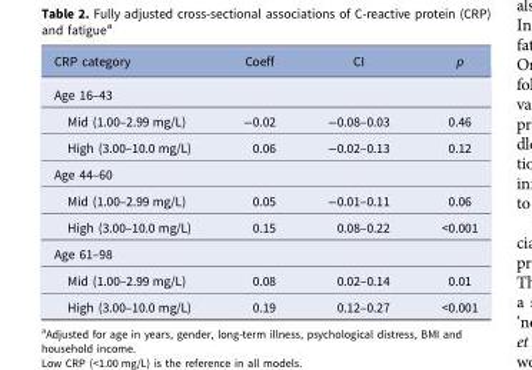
<table><thead><tr><td>CRP category</td><td>Coeff</td><td>CI</td><td>p</td></tr></thead><tbody><tr><td colspan="4">Age 16–43</td></tr><tr><td>Mid (1.00–2.99 mg/L)</td><td>−0.02</td><td>−0.08–0.03</td><td>0.46</td></tr><tr><td>High (3.00–10.0 mg/L)</td><td>0.06</td><td>−0.02–0.13</td><td>0.12</td></tr><tr><td colspan="4">Age 44–60</td></tr><tr><td>Mid (1.00–2.99 mg/L)</td><td>0.05</td><td>−0.01–0.11</td><td>0.06</td></tr><tr><td>High (3.00–10.0 mg/L)</td><td>0.15</td><td>0.08–0.22</td><td>&lt;0.001</td></tr><tr><td colspan="4">Age 61–98</td></tr><tr><td>Mid (1.00–2.99 mg/L)</td><td>0.08</td><td>0.02–0.14</td><td>0.01</td></tr><tr><td>High (3.00–10.0 mg/L)</td><td>0.19</td><td>0.12–0.27</td><td>&lt;0.001</td></tr></tbody></table>